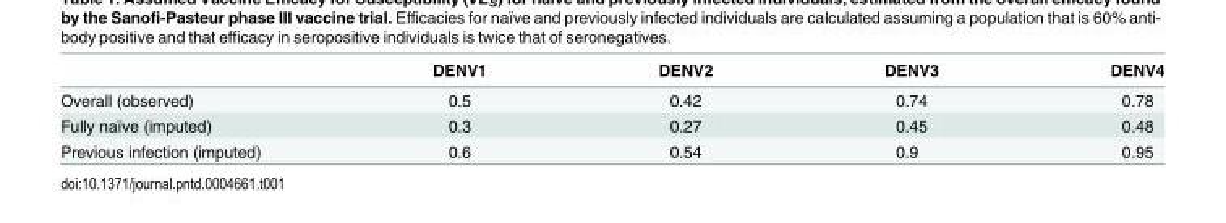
<table><thead><tr><td></td><td>DENV1</td><td>DENV2</td><td>DENV3</td><td>DENV4</td></tr></thead><tbody><tr><td>Overall (observed)</td><td>0.5</td><td>0.42</td><td>0.74</td><td>0.78</td></tr><tr><td>Fully naïve (imputed)</td><td>0.3</td><td>0.27</td><td>0.45</td><td>0.48</td></tr><tr><td>Previous infection (imputed)</td><td>0.6</td><td>0.54</td><td>0.9</td><td>0.95</td></tr></tbody></table>